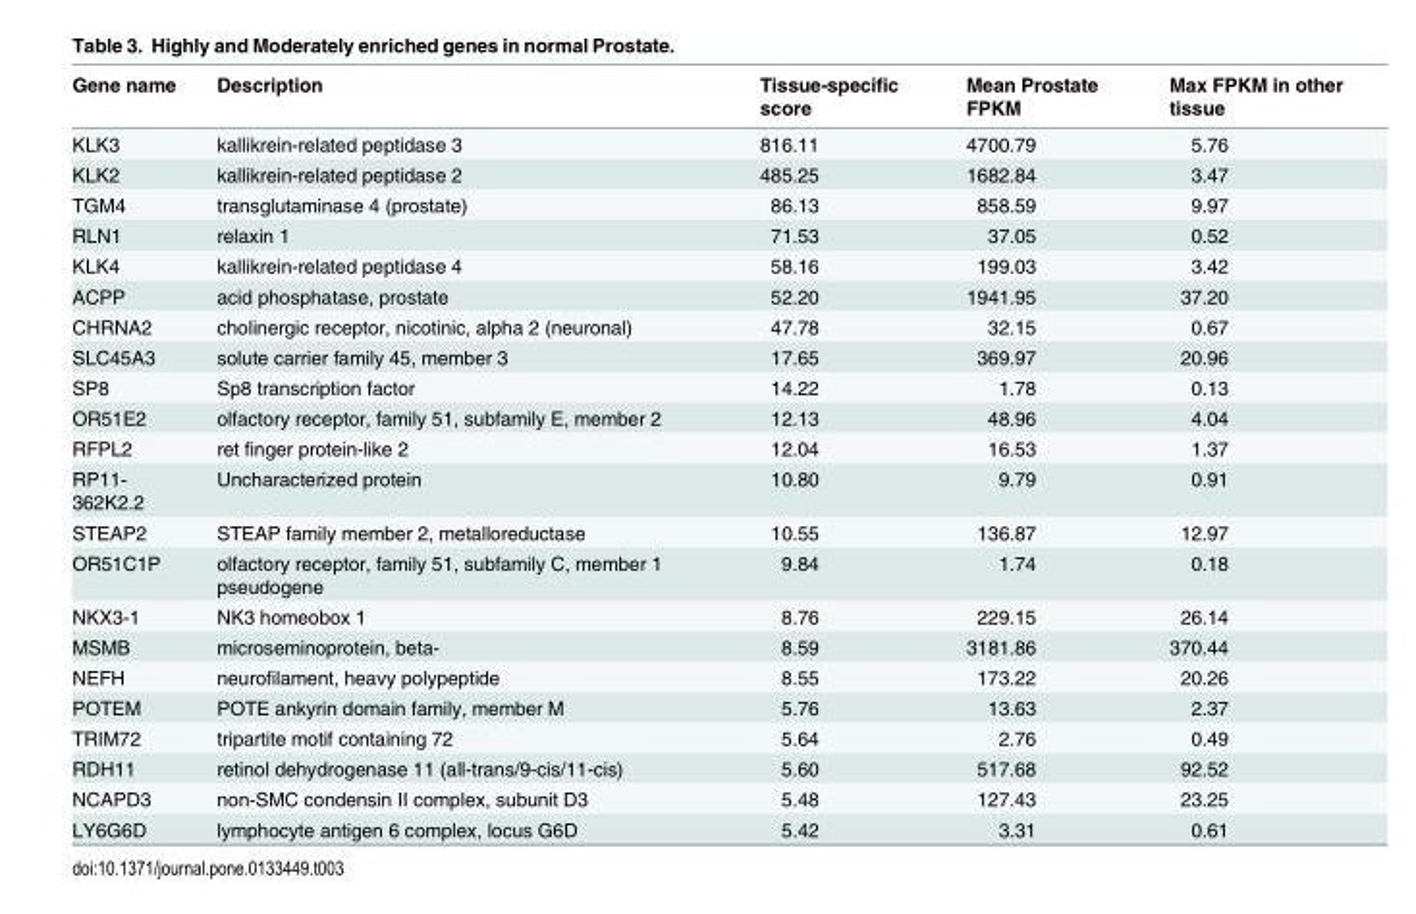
<table><thead><tr><td>Gene name</td><td>Description</td><td>Tissue-specific score</td><td>Mean Prostate FPKM</td><td>Max FPKM in other tissue</td></tr></thead><tbody><tr><td>KLK3</td><td>kallikrein-related peptidase 3</td><td>816.11</td><td>4700.79</td><td>5.76</td></tr><tr><td>KLK2</td><td>kallikrein-related peptidase 2</td><td>485.25</td><td>1682.84</td><td>3.47</td></tr><tr><td>TGM4</td><td>transglutaminase 4 (prostate)</td><td>86.13</td><td>858.59</td><td>9.97</td></tr><tr><td>RLN1</td><td>relaxin 1</td><td>71.53</td><td>37.05</td><td>0.52</td></tr><tr><td>KLK4</td><td>kallikrein-related peptidase 4</td><td>58.16</td><td>199.03</td><td>3.42</td></tr><tr><td>ACPP</td><td>acid phosphatase, prostate</td><td>52.20</td><td>1941.95</td><td>37.20</td></tr><tr><td>CHRNA2</td><td>cholinergic receptor, nicotinic, alpha 2 (neuronal)</td><td>47.78</td><td>32.15</td><td>0.67</td></tr><tr><td>SLC45A3</td><td>solute carrier family 45, member 3</td><td>17.65</td><td>369.97</td><td>20.96</td></tr><tr><td>SP8</td><td>Sp8 transcription factor</td><td>14.22</td><td>1.78</td><td>0.13</td></tr><tr><td>OR51E2</td><td>olfactory receptor, family 51, subfamily E, member 2</td><td>12.13</td><td>48.96</td><td>4.04</td></tr><tr><td>RFPL2</td><td>ret finger protein-like 2</td><td>12.04</td><td>16.53</td><td>1.37</td></tr><tr><td>RP11- 362K2.2</td><td>Uncharacterized protein</td><td>10.80</td><td>9.79</td><td>0.91</td></tr><tr><td>STEAP2</td><td>STEAP family member 2, metalloreductase</td><td>10.55</td><td>136.87</td><td>12.97</td></tr><tr><td>OR51C1P</td><td>olfactory receptor, family 51, subfamily C, member 1 pseudogene</td><td>9.84</td><td>1.74</td><td>0.18</td></tr><tr><td>NKX3-1</td><td>NK3 homeobox 1</td><td>8.76</td><td>229.15</td><td>26.14</td></tr><tr><td>MSMB</td><td>microseminoprotein, beta-</td><td>8.59</td><td>3181.86</td><td>370.44</td></tr><tr><td>NEFH</td><td>neurofilament, heavy polypeptide</td><td>8.55</td><td>173.22</td><td>20.26</td></tr><tr><td>POTEM</td><td>POTE ankyrin domain family, member M</td><td>5.76</td><td>13.63</td><td>2.37</td></tr><tr><td>TRIM72</td><td>tripartite motif containing 72</td><td>5.64</td><td>2.76</td><td>0.49</td></tr><tr><td>RDH11</td><td>retinol dehydrogenase 11 (all-trans/9-cis/11-cis)</td><td>5.60</td><td>517.68</td><td>92.52</td></tr><tr><td>NCAPD3</td><td>non-SMC condensin II complex, subunit D3</td><td>5.48</td><td>127.43</td><td>23.25</td></tr><tr><td>LY6G6D</td><td>lymphocyte antigen 6 complex, locus G6D</td><td>5.42</td><td>3.31</td><td>0.61</td></tr></tbody></table>